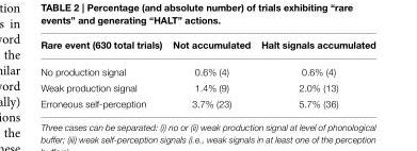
<table><thead><tr><td>Rare event (630 total trials)</td><td>Not accumulated</td><td>Halt signals accumulated</td></tr></thead><tbody><tr><td>No production signal</td><td>0.6% (4)</td><td>0.6% (4)</td></tr><tr><td>Weak production signal</td><td>1.4% (9)</td><td>2.0% (13)</td></tr><tr><td>Erroneous self-perception</td><td>3.7% (23)</td><td>5.7% (36)</td></tr></tbody></table>